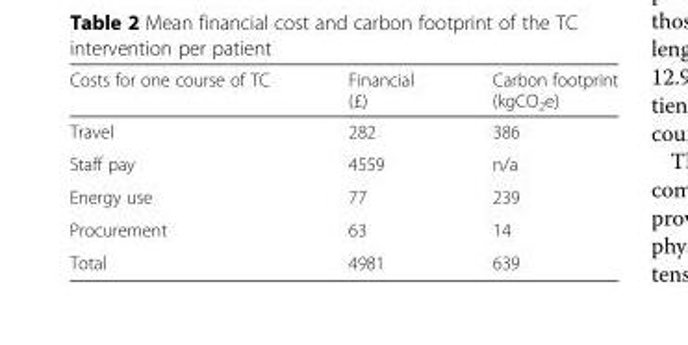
<table><thead><tr><td>Costs for one course of TC</td><td>Financial (£)</td><td>Carbon footprint (kgCO<sub>2</sub>e)</td></tr></thead><tbody><tr><td>Travel</td><td>282</td><td>386</td></tr><tr><td>Staff pay</td><td>4559</td><td>n/a</td></tr><tr><td>Energy use</td><td>77</td><td>239</td></tr><tr><td>Procurement</td><td>63</td><td>14</td></tr><tr><td>Total</td><td>4981</td><td>639</td></tr></tbody></table>